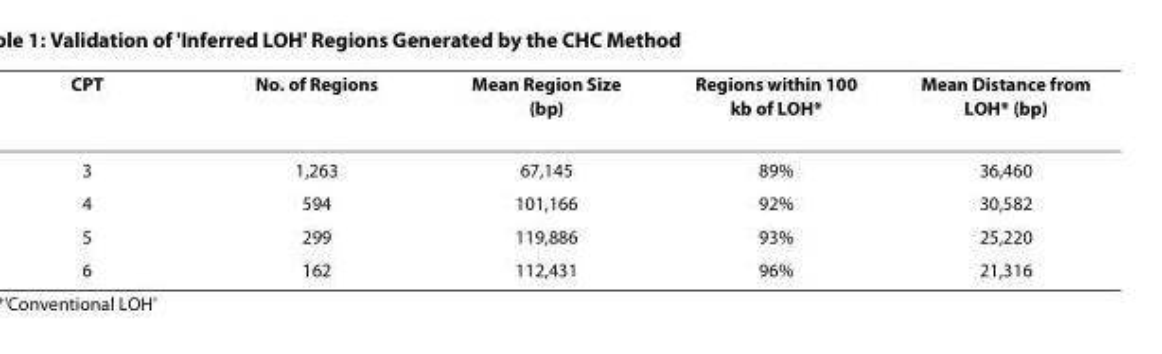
<table><thead><tr><td>CPT</td><td>No. of Regions</td><td>Mean Region Size (bp)</td><td>Regions within 100 kb of LOH*</td><td>Mean Distance from LOH* (bp)</td></tr></thead><tbody><tr><td>3</td><td>1,263</td><td>67,145</td><td>89%</td><td>36,460</td></tr><tr><td>4</td><td>594</td><td>101,166</td><td>92%</td><td>30,582</td></tr><tr><td>5</td><td>299</td><td>119,886</td><td>93%</td><td>25,220</td></tr><tr><td>6</td><td>162</td><td>112,431</td><td>96%</td><td>21,316</td></tr></tbody></table>